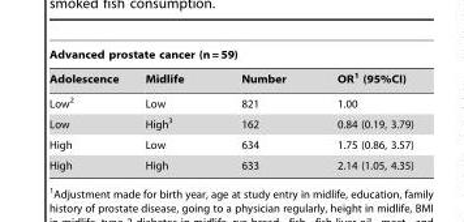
<table><thead><tr><td colspan="4">Advanced prostate cancer (n = 59)</td></tr><tr><td>Adolescence</td><td>Midlife</td><td>Number</td><td>OR<sup>1</sup> (95%CI)</td></tr></thead><tbody><tr><td>Low<sup>2</sup></td><td>Low</td><td>821</td><td>1.00</td></tr><tr><td>Low</td><td>High<sup>3</sup></td><td>162</td><td>0.84 (0.19, 3.79)</td></tr><tr><td>High</td><td>Low</td><td>634</td><td>1.75 (0.86, 3.57)</td></tr><tr><td>High</td><td>High</td><td>633</td><td>2.14 (1.05, 4.35)</td></tr></tbody></table>